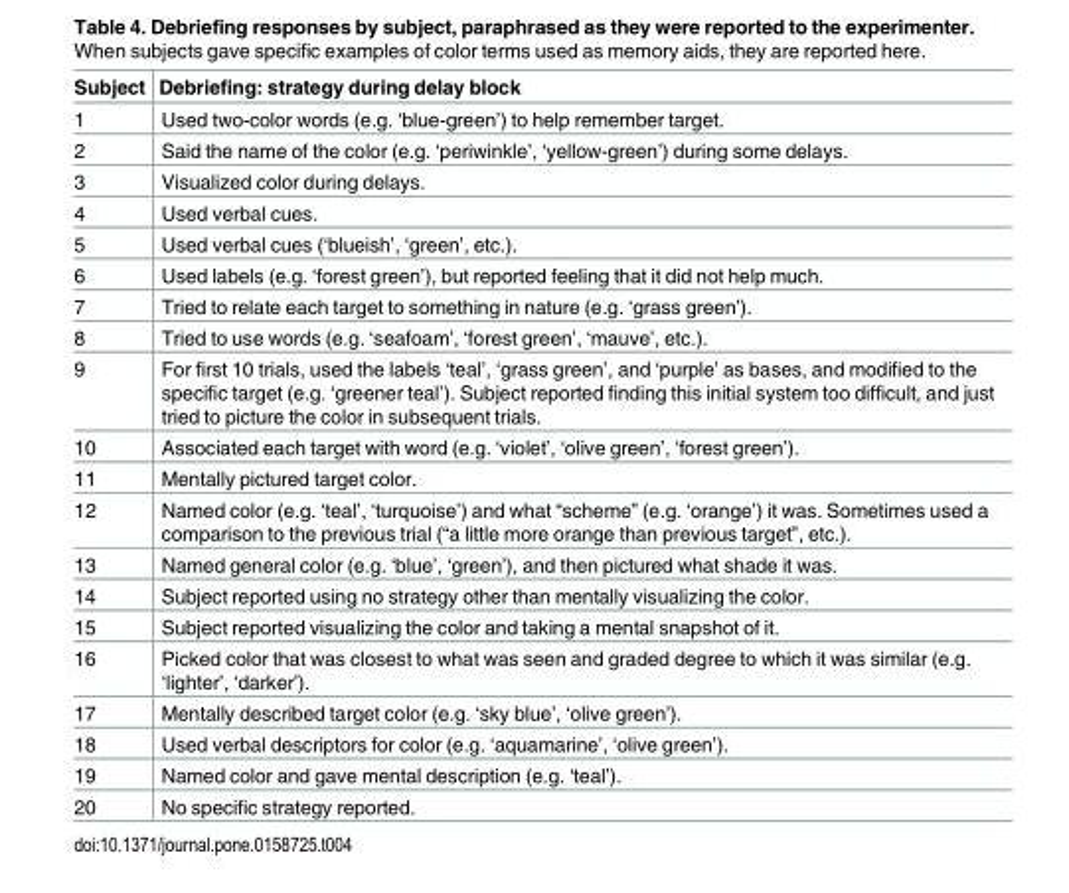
<table><thead><tr><td>Subject</td><td>Debriefing: strategy during delay block</td></tr></thead><tbody><tr><td>1</td><td>Used two-color words (e.g. ‘blue-green’) to help remember target.</td></tr><tr><td>2</td><td>Said the name of the color (e.g. ‘periwinkle’, ‘yellow-green’) during some delays.</td></tr><tr><td>3</td><td>Visualized color during delays.</td></tr><tr><td>4</td><td>Used verbal cues.</td></tr><tr><td>5</td><td>Used verbal cues (‘blueish’, ‘green’, etc.).</td></tr><tr><td>6</td><td>Used labels (e.g. ‘forest green’), but reported feeling that it did not help much.</td></tr><tr><td>7</td><td>Tried to relate each target to something in nature (e.g. ‘grass green’).</td></tr><tr><td>8</td><td>Tried to use words (e.g. ‘seafoam’, ‘forest green’, ‘mauve’, etc.).</td></tr><tr><td>9</td><td>For first 10 trials, used the labels ‘teal’, ‘grass green’, and ‘purple’ as bases, and modified to the specific target (e.g. ‘greener teal’). Subject reported finding this initial system too difficult, and just tried to picture the color in subsequent trials.</td></tr><tr><td>10</td><td>Associated each target with word (e.g. ‘violet’, ‘olive green’, ‘forest green’).</td></tr><tr><td>11</td><td>Mentally pictured target color.</td></tr><tr><td>12</td><td>Named color (e.g. ‘teal’, ‘turquoise’) and what “scheme” (e.g. ‘orange’) it was. Sometimes used a comparison to the previous trial (“a little more orange than previous target”, etc.).</td></tr><tr><td>13</td><td>Named general color (e.g. ‘blue’, ‘green’), and then pictured what shade it was.</td></tr><tr><td>14</td><td>Subject reported using no strategy other than mentally visualizing the color.</td></tr><tr><td>15</td><td>Subject reported visualizing the color and taking a mental snapshot of it.</td></tr><tr><td>16</td><td>Picked color that was closest to what was seen and graded degree to which it was similar (e.g. ‘lighter’, ‘darker’).</td></tr><tr><td>17</td><td>Mentally described target color (e.g. ‘sky blue’, ‘olive green’).</td></tr><tr><td>18</td><td>Used verbal descriptors for color (e.g. ‘aquamarine’, ‘olive green’).</td></tr><tr><td>19</td><td>Named color and gave mental description (e.g. ‘teal’).</td></tr><tr><td>20</td><td>No specific strategy reported.</td></tr></tbody></table>